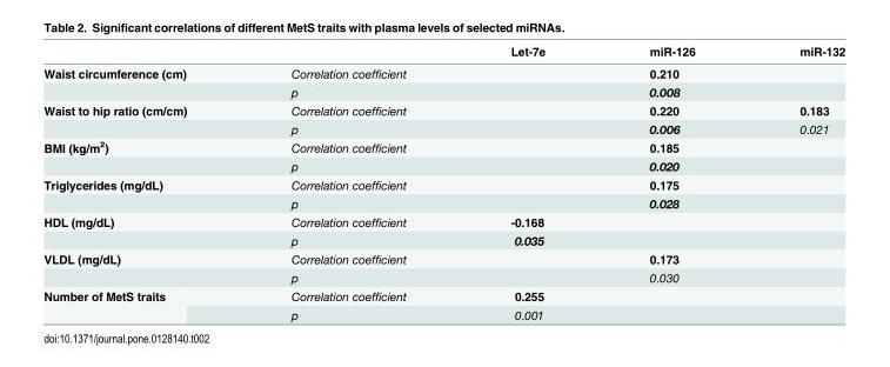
<table><thead><tr><td></td><td></td><td>Let-7e</td><td>miR-126</td><td>miR-132</td></tr></thead><tbody><tr><td rowspan="2">Waist circumference (cm)</td><td>Correlation coefficient</td><td></td><td>0.210</td><td></td></tr><tr><td>p</td><td></td><td>0.008</td><td></td></tr><tr><td rowspan="2">Waist to hip ratio (cm/cm)</td><td>Correlation coefficient</td><td></td><td>0.220</td><td>0.183</td></tr><tr><td>p</td><td></td><td>0.006</td><td>0.021</td></tr><tr><td rowspan="2">BMI (kg/m<sup>2</sup>)</td><td>Correlation coefficient</td><td></td><td>0.185</td><td></td></tr><tr><td>p</td><td></td><td>0.020</td><td></td></tr><tr><td rowspan="2">Triglycerides (mg/dL)</td><td>Correlation coefficient</td><td></td><td>0.175</td><td></td></tr><tr><td>p</td><td></td><td>0.028</td><td></td></tr><tr><td rowspan="2">HDL (mg/dL)</td><td>Correlation coefficient</td><td>-0.168</td><td></td><td></td></tr><tr><td>p</td><td>0.035</td><td></td><td></td></tr><tr><td rowspan="2">VLDL (mg/dL)</td><td>Correlation coefficient</td><td></td><td>0.173</td><td></td></tr><tr><td>p</td><td></td><td>0.030</td><td></td></tr><tr><td rowspan="2">Number of MetS traits</td><td>Correlation coefficient</td><td>0.255</td><td></td><td></td></tr><tr><td>p</td><td>0.001</td><td></td><td></td></tr></tbody></table>